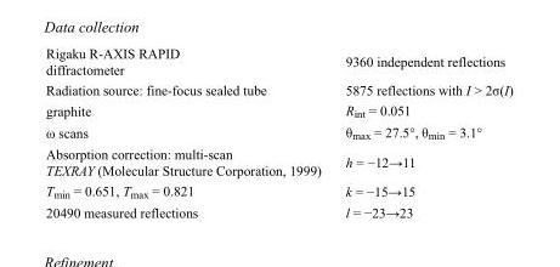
<table><tbody><tr><td>Rigaku R-AXIS RAPID diffractometer</td><td>9360 independent reflections</td></tr><tr><td>Radiation source: fine-focus sealed tube</td><td>5875 reflections with I &gt; 2σ(I)</td></tr><tr><td>graphite</td><td>R<sub>int</sub> = 0.051</td></tr><tr><td>ω scans</td><td>θ<sub>max</sub> = 27.5°, θ<sub>min</sub> = 3.1°</td></tr><tr><td>Absorption correction: multi-scan TEXRAY (Molecular Structure Corporation, 1999)</td><td>h = −12→11</td></tr><tr><td>T<sub>min</sub> = 0.651, T<sub>max</sub> = 0.821</td><td>k = −15→15</td></tr><tr><td>20490 measured reflections</td><td>l = −23→23</td></tr></tbody></table>